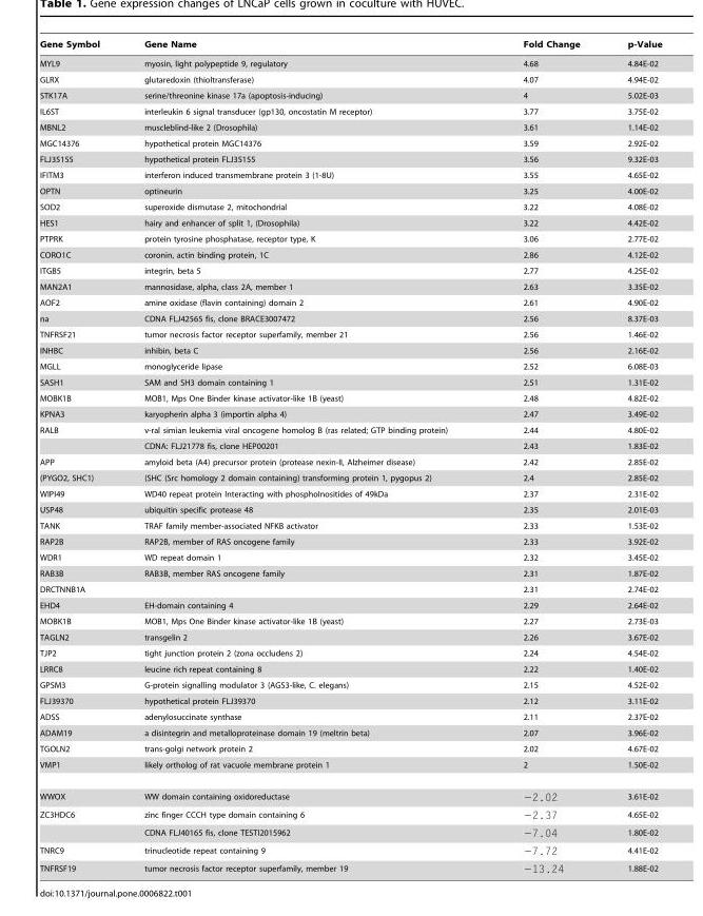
<table><thead><tr><td>Gene Symbol</td><td>Gene Name</td><td>Fold Change</td><td>p-Value</td></tr></thead><tbody><tr><td>MYL9</td><td>myosin, light polypeptide 9, regulatory</td><td>4.68</td><td>4.84E-02</td></tr><tr><td>GLRX</td><td>glutaredoxin (thioltransferase)</td><td>4.07</td><td>4.94E-02</td></tr><tr><td>STK17A</td><td>serine/threonine kinase 17a (apoptosis-inducing)</td><td>4</td><td>5.02E-03</td></tr><tr><td>IL6ST</td><td>interleukin 6 signal transducer (gp130, oncostatin M receptor)</td><td>3.77</td><td>3.75E-02</td></tr><tr><td>MBNL2</td><td>muscleblind-like 2 (Drosophila)</td><td>3.61</td><td>1.14E-02</td></tr><tr><td>MGC14376</td><td>hypothetical protein MGC14376</td><td>3.59</td><td>2.92E-02</td></tr><tr><td>FLJ35155</td><td>hypothetical protein FLJ35155</td><td>3.56</td><td>9.32E-03</td></tr><tr><td>IFITM3</td><td>interferon induced transmembrane protein 3 (1-8U)</td><td>3.55</td><td>4.65E-02</td></tr><tr><td>OPTN</td><td>optineurin</td><td>3.25</td><td>4.00E-02</td></tr><tr><td>SOD2</td><td>superoxide dismutase 2, mitochondrial</td><td>3.22</td><td>4.08E-02</td></tr><tr><td>HES1</td><td>hairy and enhancer of split 1, (Drosophila)</td><td>3.22</td><td>4.42E-02</td></tr><tr><td>PTPRK</td><td>protein tyrosine phosphatase, receptor type, K</td><td>3.06</td><td>2.77E-02</td></tr><tr><td>CORO1C</td><td>coronin, actin binding protein, 1C</td><td>2.86</td><td>4.12E-02</td></tr><tr><td>ITGB5</td><td>integrin, beta 5</td><td>2.77</td><td>4.25E-02</td></tr><tr><td>MAN2A1</td><td>mannosidase, alpha, class 2A, member 1</td><td>2.63</td><td>3.35E-02</td></tr><tr><td>AOF2</td><td>amine oxidase (flavin containing) domain 2</td><td>2.61</td><td>4.90E-02</td></tr><tr><td>na</td><td>CDNA FLJ42565 fis, clone BRACE3007472</td><td>2.56</td><td>8.37E-03</td></tr><tr><td>TNFRSF21</td><td>tumor necrosis factor receptor superfamily, member 21</td><td>2.56</td><td>1.46E-02</td></tr><tr><td>INHBC</td><td>inhibin, beta C</td><td>2.56</td><td>2.16E-02</td></tr><tr><td>MGLL</td><td>monoglyceride lipase</td><td>2.52</td><td>6.08E-03</td></tr><tr><td>SASH1</td><td>SAM and SH3 domain containing 1</td><td>2.51</td><td>1.31E-02</td></tr><tr><td>MOBK1B</td><td>MOB1, Mps One Binder kinase activator-like 1B (yeast)</td><td>2.48</td><td>4.82E-02</td></tr><tr><td>KPNA3</td><td>karyopherin alpha 3 (importin alpha 4)</td><td>2.47</td><td>3.49E-02</td></tr><tr><td rowspan="2">RALB</td><td>v-ral simian leukemia viral oncogene homolog B (ras related; GTP binding protein)</td><td>2.44</td><td>4.80E-02</td></tr><tr><td>CDNA: FLJ21778 fis, clone HEP00201</td><td>2.43</td><td>1.83E-02</td></tr><tr><td>APP</td><td>amyloid beta (A4) precursor protein (protease nexin-II, Alzheimer disease)</td><td>2.42</td><td>2.85E-02</td></tr><tr><td>(PYGO2, SHC1)</td><td>(SHC (Src homology 2 domain containing) transforming protein 1, pygopus 2)</td><td>2.4</td><td>2.85E-02</td></tr><tr><td>WIPI49</td><td>WD40 repeat protein Interacting with phosphoInositides of 49kDa</td><td>2.37</td><td>2.31E-02</td></tr><tr><td>USP48</td><td>ubiquitin specific protease 48</td><td>2.35</td><td>2.01E-03</td></tr><tr><td>TANK</td><td>TRAF family member-associated NFKB activator</td><td>2.33</td><td>1.53E-02</td></tr><tr><td>RAP2B</td><td>RAP2B, member of RAS oncogene family</td><td>2.33</td><td>3.92E-02</td></tr><tr><td>WDR1</td><td>WD repeat domain 1</td><td>2.32</td><td>3.45E-02</td></tr><tr><td>RAB3B</td><td>RAB3B, member RAS oncogene family</td><td>2.31</td><td>1.87E-02</td></tr><tr><td>DRCTNNB1A</td><td></td><td>2.31</td><td>2.74E-02</td></tr><tr><td>EHD4</td><td>EH-domain containing 4</td><td>2.29</td><td>2.64E-02</td></tr><tr><td>MOBK1B</td><td>MOB1, Mps One Binder kinase activator-like 1B (yeast)</td><td>2.27</td><td>2.73E-03</td></tr><tr><td>TAGLN2</td><td>transgelin 2</td><td>2.26</td><td>3.67E-02</td></tr><tr><td>TJP2</td><td>tight junction protein 2 (zona occludens 2)</td><td>2.24</td><td>4.54E-02</td></tr><tr><td>LRRC8</td><td>leucine rich repeat containing 8</td><td>2.22</td><td>1.40E-02</td></tr><tr><td>GPSM3</td><td>G-protein signalling modulator 3 (AGS3-like, C. elegans)</td><td>2.15</td><td>4.52E-02</td></tr><tr><td>FLJ39370</td><td>hypothetical protein FLJ39370</td><td>2.12</td><td>3.11E-02</td></tr><tr><td>ADSS</td><td>adenylosuccinate synthase</td><td>2.11</td><td>2.37E-02</td></tr><tr><td>ADAM19</td><td>a disintegrin and metalloproteinase domain 19 (meltrin beta)</td><td>2.07</td><td>3.96E-02</td></tr><tr><td>TGOLN2</td><td>trans-golgi network protein 2</td><td>2.02</td><td>4.67E-02</td></tr><tr><td>VMP1</td><td>likely ortholog of rat vacuole membrane protein 1</td><td>2</td><td>1.50E-02</td></tr><tr><td>WWOX</td><td>WW domain containing oxidoreductase</td><td>−2.02</td><td>3.61E-02</td></tr><tr><td rowspan="2">ZC3HDC6</td><td>zinc finger CCCH type domain containing 6</td><td>−2.37</td><td>4.65E-02</td></tr><tr><td>CDNA FLJ40165 fis, clone TESTI2015962</td><td>−7.04</td><td>1.80E-02</td></tr><tr><td>TNRC9</td><td>trinucleotide repeat containing 9</td><td>−7.72</td><td>4.41E-02</td></tr><tr><td>TNFRSF19</td><td>tumor necrosis factor receptor superfamily, member 19</td><td>−13.24</td><td>1.88E-02</td></tr></tbody></table>